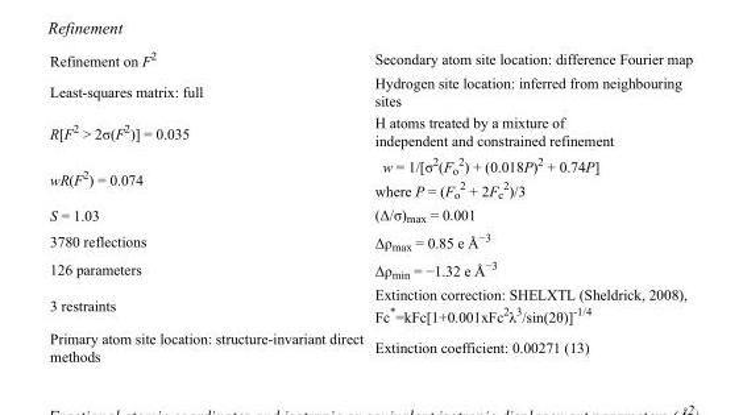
<table><tbody><tr><td>Refinement on F<sup>2</sup></td><td>Secondary atom site location: difference Fourier map</td></tr><tr><td>Least-squares matrix: full</td><td>Hydrogen site location: inferred from neighbouring sites</td></tr><tr><td>R[F<sup>2</sup> &gt; 2σ(F<sup>2</sup>)] = 0.035</td><td>H atoms treated by a mixture of independent and constrained refinement</td></tr><tr><td>wR(F<sup>2</sup>) = 0.074</td><td>w = 1/[σ<sup>2</sup>(F<sub>o</sub> <sup>2</sup>) + (0.018P)<sup>2</sup> + 0.74P] where P = (F<sub>o</sub> <sup>2</sup> + 2F<sub>c</sub> <sup>2</sup>)/3</td></tr><tr><td>S = 1.03</td><td>(Δ/σ)<sub>max</sub> = 0.001</td></tr><tr><td>3780 reflections</td><td>Δρ<sub>max</sub> = 0.85 e Å<sup>−3</sup></td></tr><tr><td>126 parameters</td><td>Δρ<sub>min</sub> = −1.32 e Å<sup>−3</sup></td></tr><tr><td>3 restraints</td><td>Extinction correction: SHELXTL (Sheldrick, 2008), Fc*=kFc[1+0.001xFc<sup>2</sup>λ<sup>3</sup>/sin(2θ)]<sup>-1/4</sup></td></tr><tr><td>Primary atom site location: structure-invariant direct methods</td><td>Extinction coefficient: 0.00271 (13)</td></tr></tbody></table>